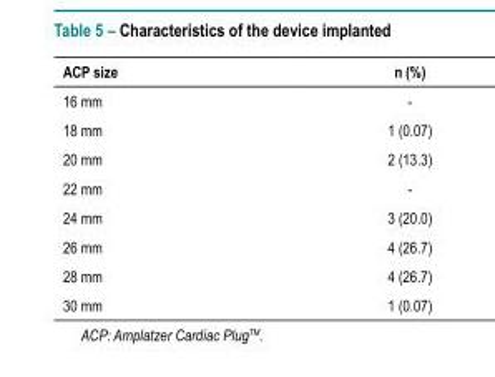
<table><thead><tr><td>ACP size</td><td>n (%)</td></tr></thead><tbody><tr><td>16 mm</td><td>-</td></tr><tr><td>18 mm</td><td>1 (0.07)</td></tr><tr><td>20 mm</td><td>2 (13.3)</td></tr><tr><td>22 mm</td><td>-</td></tr><tr><td>24 mm</td><td>3 (20.0)</td></tr><tr><td>26 mm</td><td>4 (26.7)</td></tr><tr><td>28 mm</td><td>4 (26.7)</td></tr><tr><td>30 mm</td><td>1 (0.07)</td></tr></tbody></table>